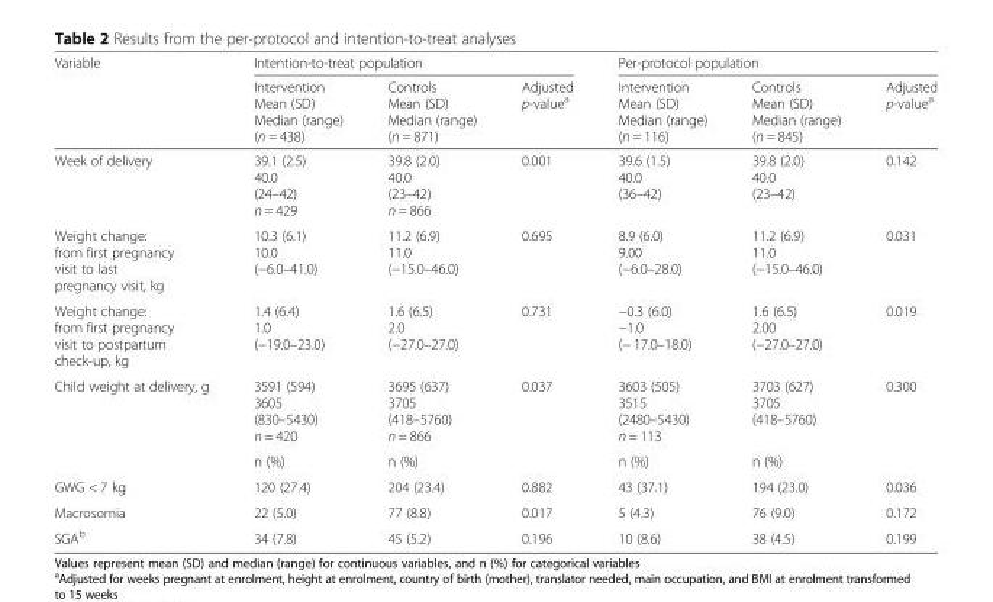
<table><thead><tr><td rowspan="2">Variable</td><td colspan="3">Intention-to-treat population</td><td colspan="3">Per-protocol population</td></tr><tr><td>Intervention Mean (SD) Median (range) (n = 438)</td><td>Controls Mean (SD) Median (range) (n = 871)</td><td>Adjusted p-value<sup>a</sup></td><td>Intervention Mean (SD) Median (range) (n = 116)</td><td>Controls Mean (SD) Median (range) (n = 845)</td><td>Adjusted p-value<sup>a</sup></td></tr></thead><tbody><tr><td>Week of delivery</td><td>39.1 (2.5) 40.0 (24–42) n = 429</td><td>39.8 (2.0) 40.0 (23–42) n = 866</td><td>0.001</td><td>39.6 (1.5) 40.0 (36–42)</td><td>39.8 (2.0) 40.0 (23–42)</td><td>0.142</td></tr><tr><td>Weight change: from first pregnancy visit to last pregnancy visit, kg</td><td>10.3 (6.1) 10.0 (−6.0–41.0)</td><td>11.2 (6.9) 11.0 (−15.0–46.0)</td><td>0.695</td><td>8.9 (6.0) 9.00 (−6.0–28.0)</td><td>11.2 (6.9) 11.0 (−15.0–46.0)</td><td>0.031</td></tr><tr><td>Weight change: from first pregnancy visit to postpartum check-up, kg</td><td>1.4 (6.4) 1.0 (−19.0–23.0)</td><td>1.6 (6.5) 2.0 (−27.0–27.0)</td><td>0.731</td><td>−0.3 (6.0) −1.0 (− 17.0–18.0)</td><td>1.6 (6.5) 2.00 (−27.0–27.0)</td><td>0.019</td></tr><tr><td rowspan="2">Child weight at delivery, g</td><td>3591 (594) 3605 (830–5430) n = 420</td><td>3695 (637) 3705 (418–5760) n = 866</td><td>0.037</td><td>3603 (505) 3515 (2480–5430) n = 113</td><td>3703 (627) 3705 (418–5760)</td><td>0.300</td></tr><tr><td>n (%)</td><td>n (%)</td><td></td><td>n (%)</td><td>n (%)</td><td></td></tr><tr><td>GWG &lt; 7 kg</td><td>120 (27.4)</td><td>204 (23.4)</td><td>0.882</td><td>43 (37.1)</td><td>194 (23.0)</td><td>0.036</td></tr><tr><td>Macrosomia</td><td>22 (5.0)</td><td>77 (8.8)</td><td>0.017</td><td>5 (4.3)</td><td>76 (9.0)</td><td>0.172</td></tr><tr><td>SGA<sup>b</sup></td><td>34 (7.8)</td><td>45 (5.2)</td><td>0.196</td><td>10 (8.6)</td><td>38 (4.5)</td><td>0.199</td></tr></tbody></table>